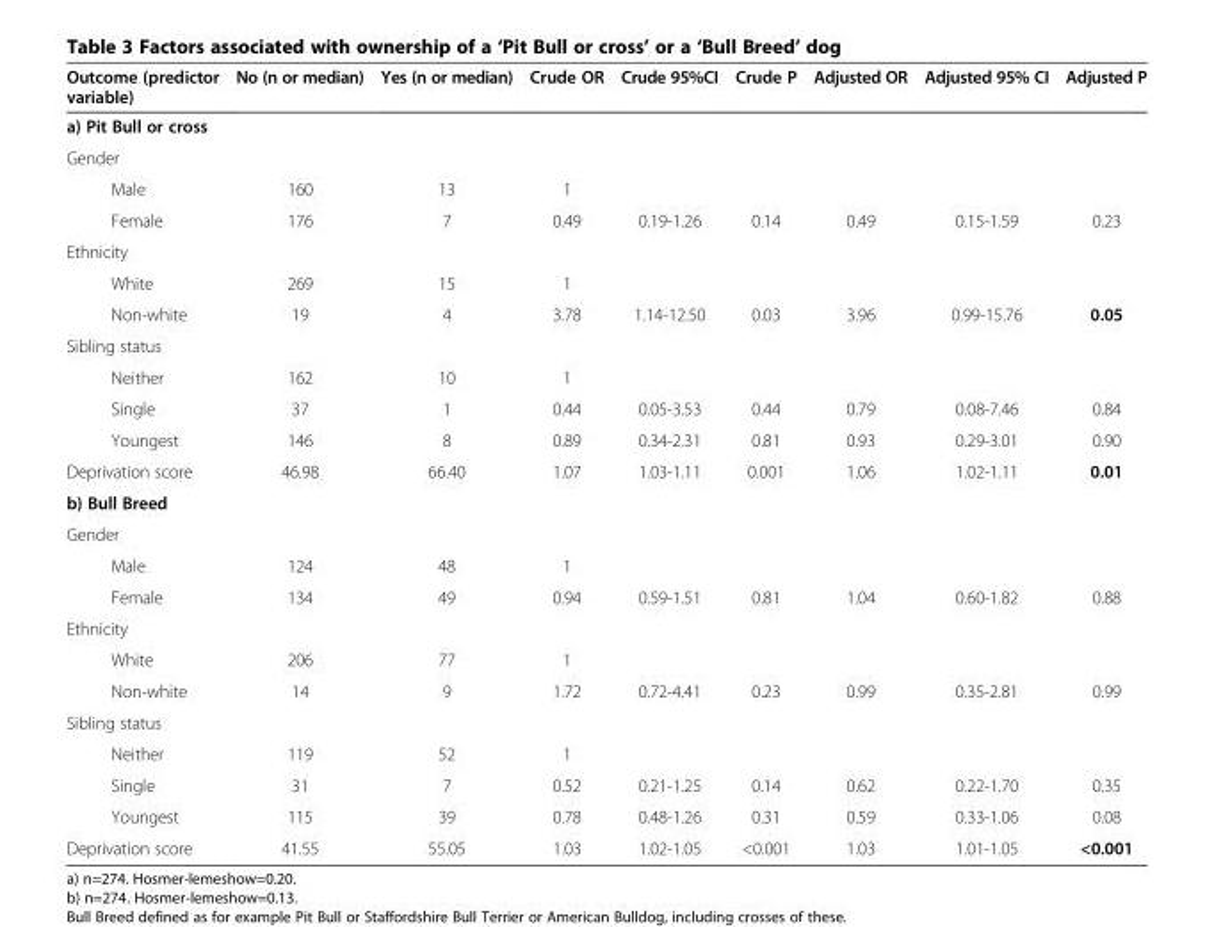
<table><thead><tr><td>Outcome (predictor variable)</td><td>No (n or median)</td><td>Yes (n or median)</td><td>Crude OR</td><td>Crude 95%CI</td><td>Crude P</td><td>Adjusted OR</td><td>Adjusted 95% CI</td><td>Adjusted P</td></tr></thead><tbody><tr><td colspan="9">a) Pit Bull or cross</td></tr><tr><td colspan="9">Gender</td></tr><tr><td>Male</td><td>160</td><td>13</td><td>1</td><td></td><td></td><td></td><td></td><td></td></tr><tr><td>Female</td><td>176</td><td>7</td><td>0.49</td><td>0.19-1.26</td><td>0.14</td><td>0.49</td><td>0.15-1.59</td><td>0.23</td></tr><tr><td colspan="9">Ethnicity</td></tr><tr><td>White</td><td>269</td><td>15</td><td>1</td><td></td><td></td><td></td><td></td><td></td></tr><tr><td>Non-white</td><td>19</td><td>4</td><td>3.78</td><td>1.14-12.50</td><td>0.03</td><td>3.96</td><td>0.99-15.76</td><td>0.05</td></tr><tr><td colspan="9">Sibling status</td></tr><tr><td>Neither</td><td>162</td><td>10</td><td>1</td><td></td><td></td><td></td><td></td><td></td></tr><tr><td>Single</td><td>37</td><td>1</td><td>0.44</td><td>0.05-3.53</td><td>0.44</td><td>0.79</td><td>0.08-7.46</td><td>0.84</td></tr><tr><td>Youngest</td><td>146</td><td>8</td><td>0.89</td><td>0.34-2.31</td><td>0.81</td><td>0.93</td><td>0.29-3.01</td><td>0.90</td></tr><tr><td>Deprivation score</td><td>46.98</td><td>66.40</td><td>1.07</td><td>1.03-1.11</td><td>0.001</td><td>1.06</td><td>1.02-1.11</td><td>0.01</td></tr><tr><td colspan="9">b) Bull Breed</td></tr><tr><td colspan="9">Gender</td></tr><tr><td>Male</td><td>124</td><td>48</td><td>1</td><td></td><td></td><td></td><td></td><td></td></tr><tr><td>Female</td><td>134</td><td>49</td><td>0.94</td><td>0.59-1.51</td><td>0.81</td><td>1.04</td><td>0.60-1.82</td><td>0.88</td></tr><tr><td colspan="9">Ethnicity</td></tr><tr><td>White</td><td>206</td><td>77</td><td>1</td><td></td><td></td><td></td><td></td><td></td></tr><tr><td>Non-white</td><td>14</td><td>9</td><td>1.72</td><td>0.72-4.41</td><td>0.23</td><td>0.99</td><td>0.35-2.81</td><td>0.99</td></tr><tr><td colspan="9">Sibling status</td></tr><tr><td>Neither</td><td>119</td><td>52</td><td>1</td><td></td><td></td><td></td><td></td><td></td></tr><tr><td>Single</td><td>31</td><td>7</td><td>0.52</td><td>0.21-1.25</td><td>0.14</td><td>0.62</td><td>0.22-1.70</td><td>0.35</td></tr><tr><td>Youngest</td><td>115</td><td>39</td><td>0.78</td><td>0.48-1.26</td><td>0.31</td><td>0.59</td><td>0.33-1.06</td><td>0.08</td></tr><tr><td>Deprivation score</td><td>41.55</td><td>55.05</td><td>1.03</td><td>1.02-1.05</td><td>&lt;0.001</td><td>1.03</td><td>1.01-1.05</td><td>&lt;0.001</td></tr></tbody></table>